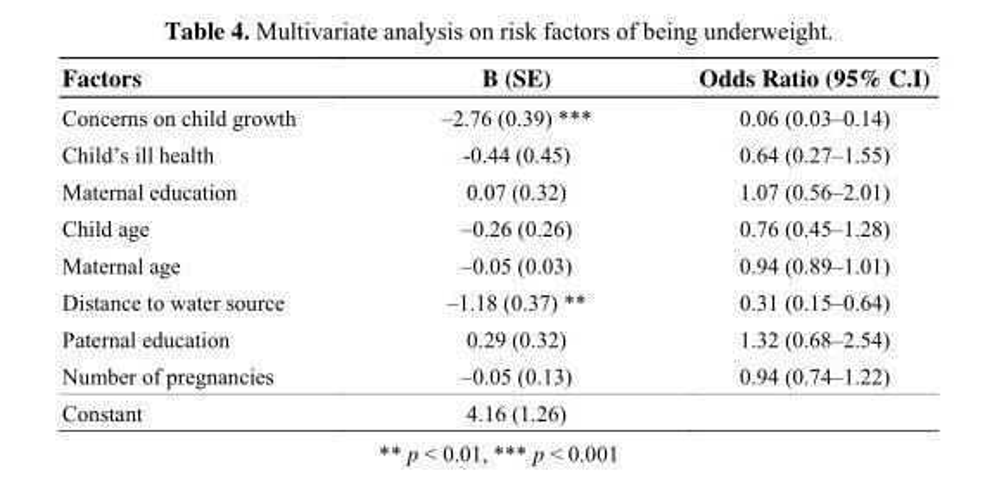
<table><thead><tr><td>Factors</td><td>B (SE)</td><td>Odds Ratio (95% C.I)</td></tr></thead><tbody><tr><td>Concerns on child growth</td><td>–2.76 (0.39) ***</td><td>0.06 (0.03–0.14)</td></tr><tr><td>Child’s ill health</td><td>-0.44 (0.45)</td><td>0.64 (0.27–1.55)</td></tr><tr><td>Maternal education</td><td>0.07 (0.32)</td><td>1.07 (0.56–2.01)</td></tr><tr><td>Child age</td><td>–0.26 (0.26)</td><td>0.76 (0.45–1.28)</td></tr><tr><td>Maternal age</td><td>–0.05 (0.03)</td><td>0.94 (0.89–1.01)</td></tr><tr><td>Distance to water source</td><td>–1.18 (0.37) **</td><td>0.31 (0.15–0.64)</td></tr><tr><td>Paternal education</td><td>0.29 (0.32)</td><td>1.32 (0.68–2.54)</td></tr><tr><td>Number of pregnancies</td><td>–0.05 (0.13)</td><td>0.94 (0.74–1.22)</td></tr><tr><td>Constant</td><td>4.16 (1.26)</td><td></td></tr></tbody></table>